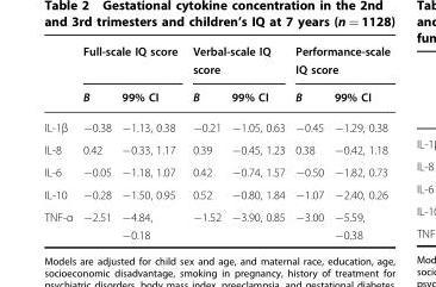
<table><thead><tr><td rowspan="2"></td><td colspan="2">Full-scale IQ score</td><td colspan="2">Verbal-scale IQ score</td><td colspan="2">Performance-scale IQ score</td></tr><tr><td>B</td><td>99% CI</td><td>B</td><td>99% CI</td><td>B</td><td>99% CI</td></tr></thead><tbody><tr><td>IL-1β</td><td>−0.38</td><td>−1.13, 0.38</td><td>−0.21</td><td>−1.05, 0.63</td><td>−0.45</td><td>−1.29, 0.38</td></tr><tr><td>IL-8</td><td>0.42</td><td>−0.33, 1.17</td><td>0.39</td><td>−0.45, 1.23</td><td>0.38</td><td>−0.42, 1.18</td></tr><tr><td>IL-6</td><td>−0.05</td><td>−1.18, 1.07</td><td>0.42</td><td>−0.74, 1.57</td><td>−0.50</td><td>−1.82, 0.73</td></tr><tr><td>IL-10</td><td>−0.28</td><td>−1.50, 0.95</td><td>0.52</td><td>−0.80, 1.84</td><td>−1.07</td><td>−2.40, 0.26</td></tr><tr><td>TNF-α</td><td>−2.51</td><td>−4.84, −0.18</td><td>−1.52</td><td>−3.90, 0.85</td><td>−3.00</td><td>−5.59, −0.38</td></tr></tbody></table>